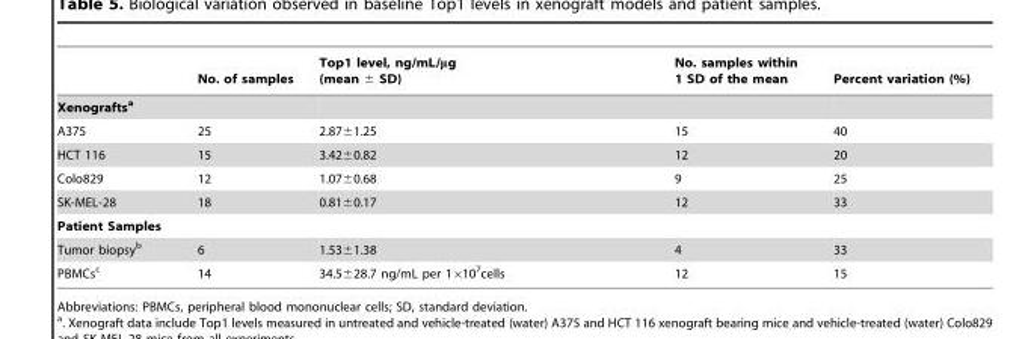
<table><thead><tr><td></td><td>No. of samples</td><td>Top1 level, ng/mL/μg (mean ± SD)</td><td>No. samples within 1 SD of the mean</td><td>Percent variation (%)</td></tr></thead><tbody><tr><td colspan="5">Xenograftsa</td></tr><tr><td>A375</td><td>25</td><td>2.87±1.25</td><td>15</td><td>40</td></tr><tr><td>HCT 116</td><td>15</td><td>3.42±0.82</td><td>12</td><td>20</td></tr><tr><td>Colo829</td><td>12</td><td>1.07±0.68</td><td>9</td><td>25</td></tr><tr><td>SK-MEL-28</td><td>18</td><td>0.81±0.17</td><td>12</td><td>33</td></tr><tr><td colspan="5">Patient Samples</td></tr><tr><td>Tumor biopsy<sup>b</sup></td><td>6</td><td>1.53±1.38</td><td>4</td><td>33</td></tr><tr><td>PBMCs<sup>c</sup></td><td>14</td><td>34.5±28.7 ng/mL per 1×10<sup>7</sup>cells</td><td>12</td><td>15</td></tr></tbody></table>